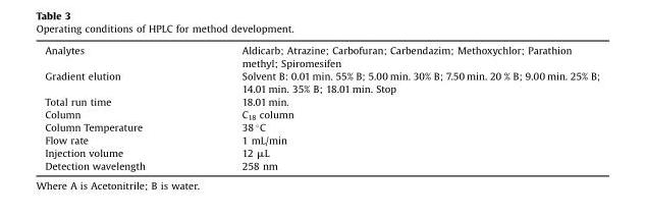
<table><tbody><tr><td>Analytes</td><td>Aldicarb; Atrazine; Carbofuran; Carbendazim; Methoxychlor; Parathion methyl; Spiromesifen</td></tr><tr><td>Gradient elution</td><td>Solvent B: 0.01 min. 55% B; 5.00 min. 30% B; 7.50 min. 20 % B; 9.00 min. 25% B; 14.01 min. 35% B; 18.01 min. Stop</td></tr><tr><td>Total run time</td><td>18.01 min.</td></tr><tr><td>Column</td><td>C<sub>18</sub> column</td></tr><tr><td>Column Temperature</td><td>38 °C</td></tr><tr><td>Flow rate</td><td>1 mL/min</td></tr><tr><td>Injection volume</td><td>12 μL</td></tr><tr><td>Detection wavelength</td><td>258 nm</td></tr></tbody></table>